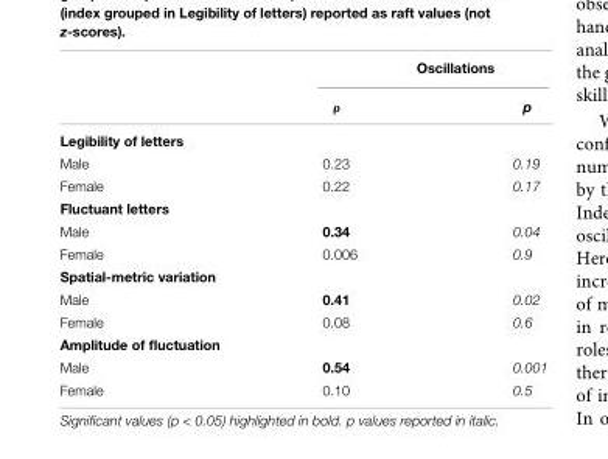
<table><thead><tr><td rowspan="2"></td><td colspan="2">Oscillations</td></tr><tr><td>ρ</td><td>p</td></tr></thead><tbody><tr><td colspan="3">Legibility of letters</td></tr><tr><td>Male</td><td>0.23</td><td>0.19</td></tr><tr><td>Female</td><td>0.22</td><td>0.17</td></tr><tr><td colspan="3">Fluctuant letters</td></tr><tr><td>Male</td><td>0.34</td><td>0.04</td></tr><tr><td>Female</td><td>0.006</td><td>0.9</td></tr><tr><td colspan="3">Spatial-metric variation</td></tr><tr><td>Male</td><td>0.41</td><td>0.02</td></tr><tr><td>Female</td><td>0.08</td><td>0.6</td></tr><tr><td colspan="3">Amplitude of fluctuation</td></tr><tr><td>Male</td><td>0.54</td><td>0.001</td></tr><tr><td>Female</td><td>0.10</td><td>0.5</td></tr></tbody></table>